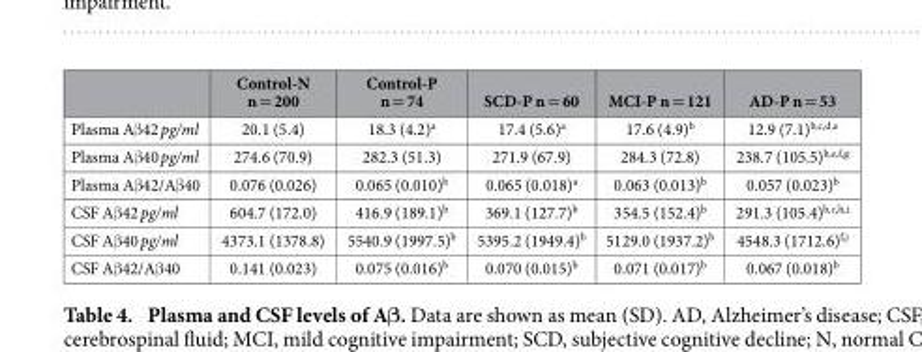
<table><thead><tr><td></td><td>Control-N n = 200</td><td>Control-P n = 74</td><td>SCD-P n = 60</td><td>MCI-P n = 121</td><td>AD-P n = 53</td></tr></thead><tbody><tr><td>Plasma Aβ 42 pg/ml</td><td>20.1 (5.4)</td><td>18.3 (4.2)a</td><td>17.4 (5.6)<sup>a</sup></td><td>17.6 (4.9)<sup>b</sup></td><td>12.9 (7.1)b,c,d,e</td></tr><tr><td>Plasma Aβ 40 pg/ml</td><td>274.6 (70.9)</td><td>282.3 (51.3)</td><td>271.9 (67.9)</td><td>284.3 (72.8)</td><td>238.7 (105.5)b,e,f,g</td></tr><tr><td>Plasma Aβ 42/Aβ 40</td><td>0.076 (0.026)</td><td>0.065 (0.010)<sup>b</sup></td><td>0.065 (0.018)<sup>a</sup></td><td>0.063 (0.013)<sup>b</sup></td><td>0.057 (0.023)<sup>b</sup></td></tr><tr><td>CSF Aβ 42 pg/ml</td><td>604.7 (172.0)</td><td>416.9 (189.1)<sup>b</sup></td><td>369.1 (127.7)<sup>b</sup></td><td>354.5 (152.4)<sup>b</sup></td><td>291.3 (105.4)b,c,h,i</td></tr><tr><td>CSF Aβ 40 pg/ml</td><td>4373.1 (1378.8)</td><td>5540.9 (1997.5)<sup>b</sup></td><td>5395.2 (1949.4)<sup>b</sup></td><td>5129.0 (1937.2)<sup>b</sup></td><td>4548.3 (1712.6)f,j</td></tr><tr><td>CSF Aβ 42/Aβ 40</td><td>0.141 (0.023)</td><td>0.075 (0.016)<sup>b</sup></td><td>0.070 (0.015)<sup>b</sup></td><td>0.071 (0.017)<sup>b</sup></td><td>0.067 (0.018)<sup>b</sup></td></tr></tbody></table>